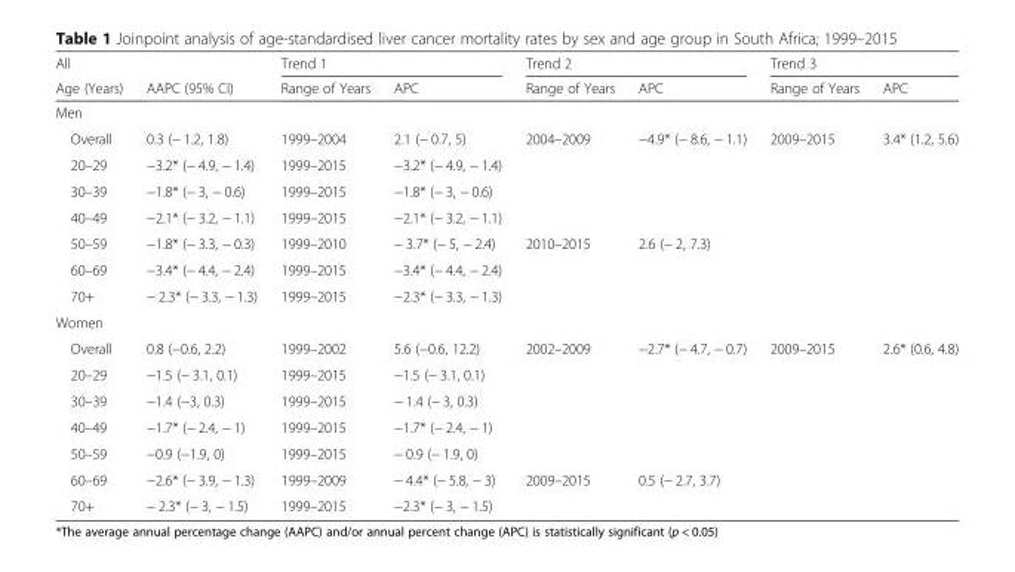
<table><thead><tr><td rowspan="2">All Age (Years)</td><td rowspan="2">AAPC (95% CI)</td><td colspan="2">Trend 1</td><td colspan="2">Trend 2</td><td colspan="2">Trend 3</td></tr><tr><td>Range of Years</td><td>APC</td><td>Range of Years</td><td>APC</td><td>Range of Years</td><td>APC</td></tr></thead><tbody><tr><td colspan="8">Men</td></tr><tr><td>Overall</td><td>0.3 (− 1.2, 1.8)</td><td>1999–2004</td><td>2.1 (− 0.7, 5)</td><td>2004–2009</td><td>−4.9* (− 8.6, − 1.1)</td><td>2009–2015</td><td>3.4* (1.2, 5.6)</td></tr><tr><td>20–29</td><td>−3.2* (− 4.9, − 1.4)</td><td>1999–2015</td><td>−3.2* (− 4.9, − 1.4)</td><td></td><td></td><td></td><td></td></tr><tr><td>30–39</td><td>−1.8* (− 3, − 0.6)</td><td>1999–2015</td><td>−1.8* (− 3, − 0.6)</td><td></td><td></td><td></td><td></td></tr><tr><td>40–49</td><td>−2.1* (− 3.2, − 1.1)</td><td>1999–2015</td><td>−2.1* (− 3.2, − 1.1)</td><td></td><td></td><td></td><td></td></tr><tr><td>50–59</td><td>−1.8* (− 3.3, − 0.3)</td><td>1999–2010</td><td>− 3.7* (− 5, − 2.4)</td><td>2010–2015</td><td>2.6 (− 2, 7.3)</td><td></td><td></td></tr><tr><td>60–69</td><td>−3.4* (− 4.4, − 2.4)</td><td>1999–2015</td><td>−3.4* (− 4.4, − 2.4)</td><td></td><td></td><td></td><td></td></tr><tr><td>70+</td><td>− 2.3* (− 3.3, − 1.3)</td><td>1999–2015</td><td>−2.3* (− 3.3, − 1.3)</td><td></td><td></td><td></td><td></td></tr><tr><td colspan="8">Women</td></tr><tr><td>Overall</td><td>0.8 (−0.6, 2.2)</td><td>1999–2002</td><td>5.6 (−0.6, 12.2)</td><td>2002–2009</td><td>−2.7* (− 4.7, − 0.7)</td><td>2009–2015</td><td>2.6* (0.6, 4.8)</td></tr><tr><td>20–29</td><td>−1.5 (− 3.1, 0.1)</td><td>1999–2015</td><td>−1.5 (− 3.1, 0.1)</td><td></td><td></td><td></td><td></td></tr><tr><td>30–39</td><td>−1.4 (−3, 0.3)</td><td>1999–2015</td><td>− 1.4 (− 3, 0.3)</td><td></td><td></td><td></td><td></td></tr><tr><td>40–49</td><td>−1.7* (− 2.4, − 1)</td><td>1999–2015</td><td>−1.7* (− 2.4, − 1)</td><td></td><td></td><td></td><td></td></tr><tr><td>50–59</td><td>−0.9 (−1.9, 0)</td><td>1999–2015</td><td>− 0.9 (− 1.9, 0)</td><td></td><td></td><td></td><td></td></tr><tr><td>60–69</td><td>−2.6* (− 3.9, − 1.3)</td><td>1999–2009</td><td>− 4.4* (− 5.8, − 3)</td><td>2009–2015</td><td>0.5 (− 2.7, 3.7)</td><td></td><td></td></tr><tr><td>70+</td><td>− 2.3* (− 3, − 1.5)</td><td>1999–2015</td><td>−2.3* (− 3, − 1.5)</td><td></td><td></td><td></td><td></td></tr></tbody></table>